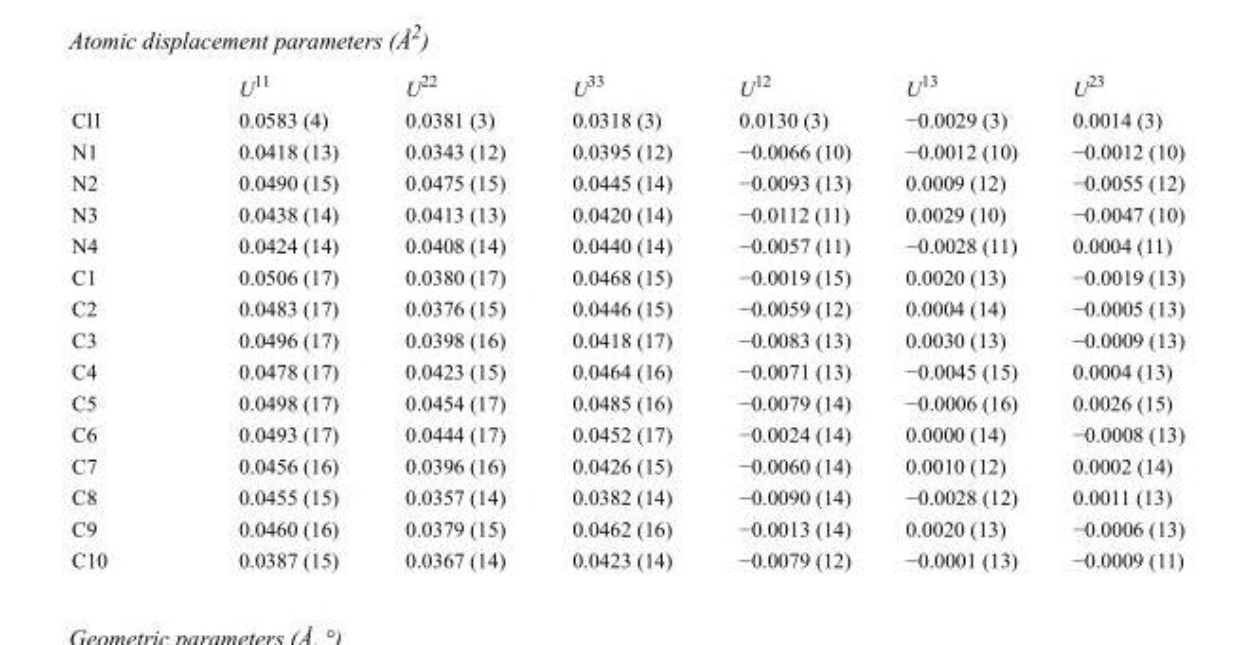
<table><thead><tr><td></td><td>U<sup>11</sup></td><td>U<sup>22</sup></td><td>U<sup>33</sup></td><td>U<sup>12</sup></td><td>U<sup>13</sup></td><td>U<sup>23</sup></td></tr></thead><tbody><tr><td>Cl1</td><td>0.0583 (4)</td><td>0.0381 (3)</td><td>0.0318 (3)</td><td>0.0130 (3)</td><td>−0.0029 (3)</td><td>0.0014 (3)</td></tr><tr><td>N1</td><td>0.0418 (13)</td><td>0.0343 (12)</td><td>0.0395 (12)</td><td>−0.0066 (10)</td><td>−0.0012 (10)</td><td>−0.0012 (10)</td></tr><tr><td>N2</td><td>0.0490 (15)</td><td>0.0475 (15)</td><td>0.0445 (14)</td><td>−0.0093 (13)</td><td>0.0009 (12)</td><td>−0.0055 (12)</td></tr><tr><td>N3</td><td>0.0438 (14)</td><td>0.0413 (13)</td><td>0.0420 (14)</td><td>−0.0112 (11)</td><td>0.0029 (10)</td><td>−0.0047 (10)</td></tr><tr><td>N4</td><td>0.0424 (14)</td><td>0.0408 (14)</td><td>0.0440 (14)</td><td>−0.0057 (11)</td><td>−0.0028 (11)</td><td>0.0004 (11)</td></tr><tr><td>C1</td><td>0.0506 (17)</td><td>0.0380 (17)</td><td>0.0468 (15)</td><td>−0.0019 (15)</td><td>0.0020 (13)</td><td>−0.0019 (13)</td></tr><tr><td>C2</td><td>0.0483 (17)</td><td>0.0376 (15)</td><td>0.0446 (15)</td><td>−0.0059 (12)</td><td>0.0004 (14)</td><td>−0.0005 (13)</td></tr><tr><td>C3</td><td>0.0496 (17)</td><td>0.0398 (16)</td><td>0.0418 (17)</td><td>−0.0083 (13)</td><td>0.0030 (13)</td><td>−0.0009 (13)</td></tr><tr><td>C4</td><td>0.0478 (17)</td><td>0.0423 (15)</td><td>0.0464 (16)</td><td>−0.0071 (13)</td><td>−0.0045 (15)</td><td>0.0004 (13)</td></tr><tr><td>C5</td><td>0.0498 (17)</td><td>0.0454 (17)</td><td>0.0485 (16)</td><td>−0.0079 (14)</td><td>−0.0006 (16)</td><td>0.0026 (15)</td></tr><tr><td>C6</td><td>0.0493 (17)</td><td>0.0444 (17)</td><td>0.0452 (17)</td><td>−0.0024 (14)</td><td>0.0000 (14)</td><td>−0.0008 (13)</td></tr><tr><td>C7</td><td>0.0456 (16)</td><td>0.0396 (16)</td><td>0.0426 (15)</td><td>−0.0060 (14)</td><td>0.0010 (12)</td><td>0.0002 (14)</td></tr><tr><td>C8</td><td>0.0455 (15)</td><td>0.0357 (14)</td><td>0.0382 (14)</td><td>−0.0090 (14)</td><td>−0.0028 (12)</td><td>0.0011 (13)</td></tr><tr><td>C9</td><td>0.0460 (16)</td><td>0.0379 (15)</td><td>0.0462 (16)</td><td>−0.0013 (14)</td><td>0.0020 (13)</td><td>−0.0006 (13)</td></tr><tr><td>C10</td><td>0.0387 (15)</td><td>0.0367 (14)</td><td>0.0423 (14)</td><td>−0.0079 (12)</td><td>−0.0001 (13)</td><td>−0.0009 (11)</td></tr></tbody></table>